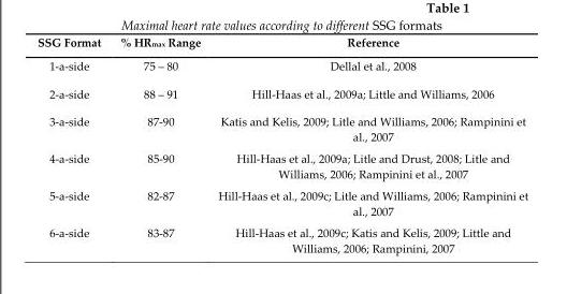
<table><thead><tr><td>SSG Format</td><td>% HR<sub>max</sub> Range</td><td>Reference</td></tr></thead><tbody><tr><td>1-a-side</td><td>75 – 80</td><td>Dellal et al., 2008</td></tr><tr><td>2-a-side</td><td>88 – 91</td><td>Hill-Haas et al., 2009a; Little and Williams, 2006</td></tr><tr><td>3-a-side</td><td>87-90</td><td>Katis and Kelis, 2009; Litle and Williams, 2006; Rampinini et al., 2007</td></tr><tr><td>4-a-side</td><td>85-90</td><td>Hill-Haas et al., 2009a; Litle and Drust, 2008; Litle and Williams, 2006; Rampinini et al., 2007</td></tr><tr><td>5-a-side</td><td>82-87</td><td>Hill-Haas et al., 2009c; Litle and Williams, 2006; Rampinini et al., 2007</td></tr><tr><td>6-a-side</td><td>83-87</td><td>Hill-Haas et al., 2009c; Katis and Kelis, 2009; Little and Williams, 2006; Rampinini, 2007</td></tr></tbody></table>